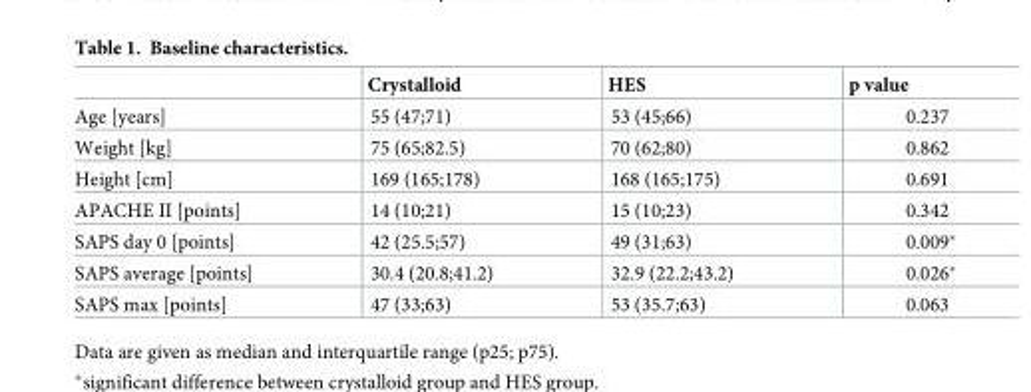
<table><thead><tr><td></td><td>Crystalloid</td><td>HES</td><td>p value</td></tr></thead><tbody><tr><td>Age [years]</td><td>55 (47;71)</td><td>53 (45;66)</td><td>0.237</td></tr><tr><td>Weight [kg]</td><td>75 (65;82.5)</td><td>70 (62;80)</td><td>0.862</td></tr><tr><td>Height [cm]</td><td>169 (165;178)</td><td>168 (165;175)</td><td>0.691</td></tr><tr><td>APACHE II [points]</td><td>14 (10;21)</td><td>15 (10;23)</td><td>0.342</td></tr><tr><td>SAPS day 0 [points]</td><td>42 (25.5;57)</td><td>49 (31;63)</td><td>0.009*</td></tr><tr><td>SAPS average [points]</td><td>30.4 (20.8;41.2)</td><td>32.9 (22.2;43.2)</td><td>0.026*</td></tr><tr><td>SAPS max [points]</td><td>47 (33;63)</td><td>53 (35.7;63)</td><td>0.063</td></tr></tbody></table>